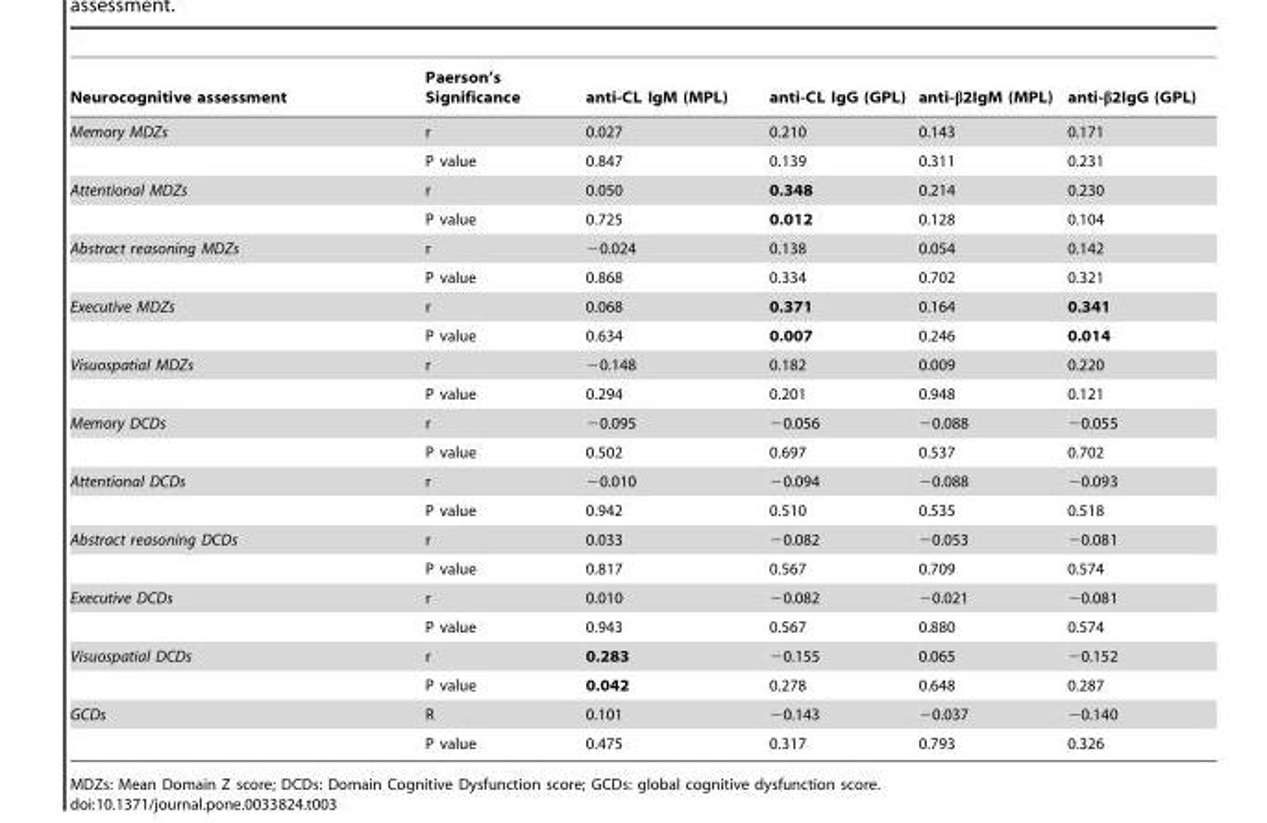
<table><thead><tr><td>Neurocognitive assessment</td><td>Paerson’s Significance</td><td>anti-CL IgM (MPL)</td><td>anti-CL IgG (GPL)</td><td>anti-β2IgM (MPL)</td><td>anti-β2IgG (GPL)</td></tr></thead><tbody><tr><td rowspan="2">Memory MDZs</td><td>r</td><td>0.027</td><td>0.210</td><td>0.143</td><td>0.171</td></tr><tr><td>P value</td><td>0.847</td><td>0.139</td><td>0.311</td><td>0.231</td></tr><tr><td rowspan="2">Attentional MDZs</td><td>r</td><td>0.050</td><td>0.348</td><td>0.214</td><td>0.230</td></tr><tr><td>P value</td><td>0.725</td><td>0.012</td><td>0.128</td><td>0.104</td></tr><tr><td rowspan="2">Abstract reasoning MDZs</td><td>r</td><td>−0.024</td><td>0.138</td><td>0.054</td><td>0.142</td></tr><tr><td>P value</td><td>0.868</td><td>0.334</td><td>0.702</td><td>0.321</td></tr><tr><td rowspan="2">Executive MDZs</td><td>r</td><td>0.068</td><td>0.371</td><td>0.164</td><td>0.341</td></tr><tr><td>P value</td><td>0.634</td><td>0.007</td><td>0.246</td><td>0.014</td></tr><tr><td rowspan="2">Visuospatial MDZs</td><td>r</td><td>−0.148</td><td>0.182</td><td>0.009</td><td>0.220</td></tr><tr><td>P value</td><td>0.294</td><td>0.201</td><td>0.948</td><td>0.121</td></tr><tr><td rowspan="2">Memory DCDs</td><td>r</td><td>−0.095</td><td>−0.056</td><td>−0.088</td><td>−0.055</td></tr><tr><td>P value</td><td>0.502</td><td>0.697</td><td>0.537</td><td>0.702</td></tr><tr><td rowspan="2">Attentional DCDs</td><td>r</td><td>−0.010</td><td>−0.094</td><td>−0.088</td><td>−0.093</td></tr><tr><td>P value</td><td>0.942</td><td>0.510</td><td>0.535</td><td>0.518</td></tr><tr><td rowspan="2">Abstract reasoning DCDs</td><td>r</td><td>0.033</td><td>−0.082</td><td>−0.053</td><td>−0.081</td></tr><tr><td>P value</td><td>0.817</td><td>0.567</td><td>0.709</td><td>0.574</td></tr><tr><td rowspan="2">Executive DCDs</td><td>r</td><td>0.010</td><td>−0.082</td><td>−0.021</td><td>−0.081</td></tr><tr><td>P value</td><td>0.943</td><td>0.567</td><td>0.880</td><td>0.574</td></tr><tr><td rowspan="2">Visuospatial DCDs</td><td>r</td><td>0.283</td><td>−0.155</td><td>0.065</td><td>−0.152</td></tr><tr><td>P value</td><td>0.042</td><td>0.278</td><td>0.648</td><td>0.287</td></tr><tr><td rowspan="2">GCDs</td><td>R</td><td>0.101</td><td>−0.143</td><td>−0.037</td><td>−0.140</td></tr><tr><td>P value</td><td>0.475</td><td>0.317</td><td>0.793</td><td>0.326</td></tr></tbody></table>